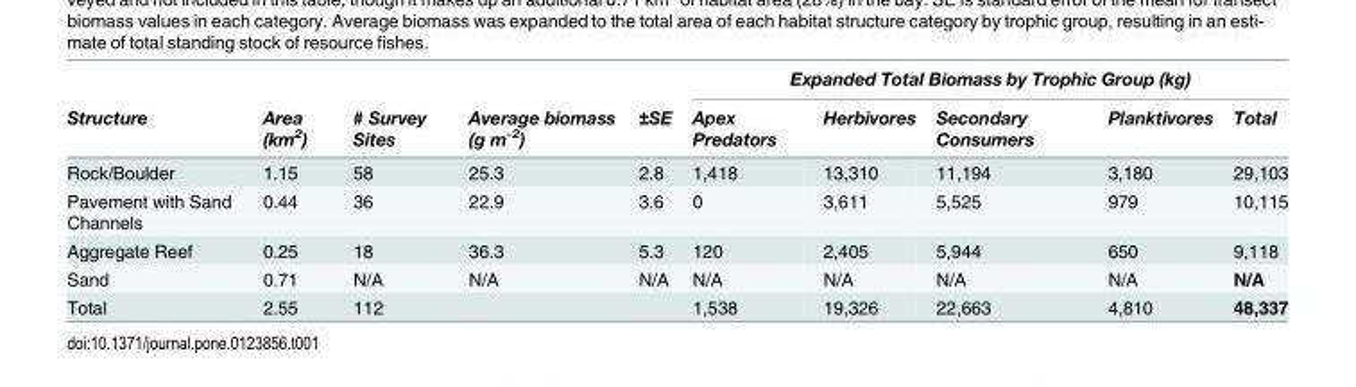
<table><thead><tr><td rowspan="2">Structure</td><td rowspan="2">Area (km<sup>2</sup>)</td><td rowspan="2"># Survey Sites</td><td rowspan="2">Average biomass (g m<sup>-2</sup>)</td><td rowspan="2">±SE</td><td colspan="5">Expanded Total Biomass by Trophic Group (kg)</td></tr><tr><td>Apex Predators</td><td>Herbivores</td><td>Secondary Consumers</td><td>Planktivores</td><td>Total</td></tr></thead><tbody><tr><td>Rock/Boulder</td><td>1.15</td><td>58</td><td>25.3</td><td>2.8</td><td>1,418</td><td>13,310</td><td>11,194</td><td>3,180</td><td>29,103</td></tr><tr><td>Pavement with Sand Channels</td><td>0.44</td><td>36</td><td>22.9</td><td>3.6</td><td>0</td><td>3,611</td><td>5,525</td><td>979</td><td>10,115</td></tr><tr><td>Aggregate Reef</td><td>0.25</td><td>18</td><td>36.3</td><td>5.3</td><td>120</td><td>2,405</td><td>5,944</td><td>650</td><td>9,118</td></tr><tr><td>Sand</td><td>0.71</td><td>N/A</td><td>N/A</td><td>N/A</td><td>N/A</td><td>N/A</td><td>N/A</td><td>N/A</td><td>N/A</td></tr><tr><td>Total</td><td>2.55</td><td>112</td><td></td><td></td><td>1,538</td><td>19,326</td><td>22,663</td><td>4,810</td><td>48,337</td></tr></tbody></table>